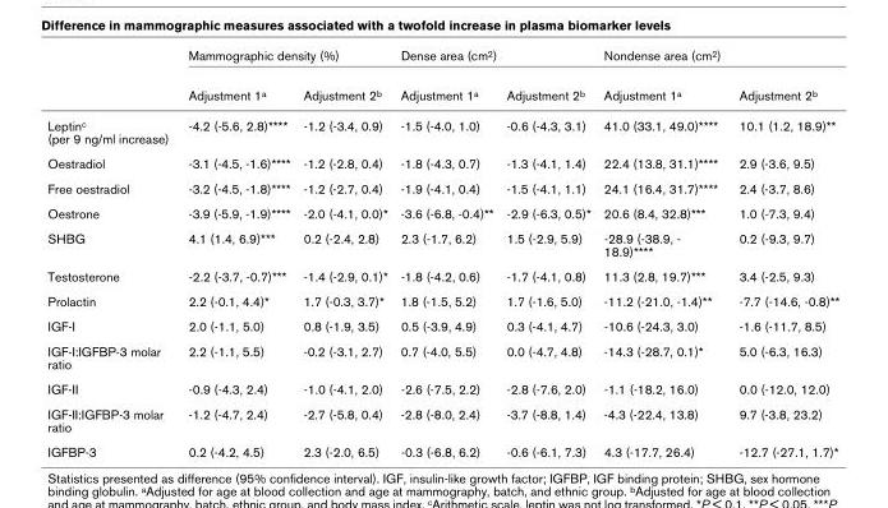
<table><thead><tr><td rowspan="2"></td><td colspan="2">Mammographic density (%)</td><td colspan="2">Dense area (cm<sup>2</sup>)</td><td colspan="2">Nondense area (cm<sup>2</sup>)</td></tr><tr><td>Adjustment 1<sup>a</sup></td><td>Adjustment 2<sup>b</sup></td><td>Adjustment 1<sup>a</sup></td><td>Adjustment 2<sup>b</sup></td><td>Adjustment 1<sup>a</sup></td><td>Adjustment 2<sup>b</sup></td></tr></thead><tbody><tr><td>Leptin<sup>c</sup> (per 9 ng/ml increase)</td><td>-4.2 (-5.6, 2.8)****</td><td>-1.2 (-3.4, 0.9)</td><td>-1.5 (-4.0, 1.0)</td><td>-0.6 (-4.3, 3.1)</td><td>41.0 (33.1, 49.0)****</td><td>10.1 (1.2, 18.9)**</td></tr><tr><td>Oestradiol</td><td>-3.1 (-4.5, -1.6)****</td><td>-1.2 (-2.8, 0.4)</td><td>-1.8 (-4.3, 0.7)</td><td>-1.3 (-4.1, 1.4)</td><td>22.4 (13.8, 31.1)****</td><td>2.9 (-3.6, 9.5)</td></tr><tr><td>Free oestradiol</td><td>-3.2 (-4.5, -1.8)****</td><td>-1.2 (-2.7, 0.4)</td><td>-1.9 (-4.1, 0.4)</td><td>-1.5 (-4.1, 1.1)</td><td>24.1 (16.4, 31.7)****</td><td>2.4 (-3.7, 8.6)</td></tr><tr><td>Oestrone</td><td>-3.9 (-5.9, -1.9)****</td><td>-2.0 (-4.1, 0.0)*</td><td>-3.6 (-6.8, -0.4)**</td><td>-2.9 (-6.3, 0.5)*</td><td>20.6 (8.4, 32.8)***</td><td>1.0 (-7.3, 9.4)</td></tr><tr><td>SHBG</td><td>4.1 (1.4, 6.9)***</td><td>0.2 (-2.4, 2.8)</td><td>2.3 (-1.7, 6.2)</td><td>1.5 (-2.9, 5.9)</td><td>-28.9 (-38.9, - 18.9)****</td><td>0.2 (-9.3, 9.7)</td></tr><tr><td>Testosterone</td><td>-2.2 (-3.7, -0.7)***</td><td>-1.4 (-2.9, 0.1)*</td><td>-1.8 (-4.2, 0.6)</td><td>-1.7 (-4.1, 0.8)</td><td>11.3 (2.8, 19.7)***</td><td>3.4 (-2.5, 9.3)</td></tr><tr><td>Prolactin</td><td>2.2 (-0.1, 4.4)*</td><td>1.7 (-0.3, 3.7)*</td><td>1.8 (-1.5, 5.2)</td><td>1.7 (-1.6, 5.0)</td><td>-11.2 (-21.0, -1.4)**</td><td>-7.7 (-14.6, -0.8)**</td></tr><tr><td>IGF-I</td><td>2.0 (-1.1, 5.0)</td><td>0.8 (-1.9, 3.5)</td><td>0.5 (-3.9, 4.9)</td><td>0.3 (-4.1, 4.7)</td><td>-10.6 (-24.3, 3.0)</td><td>-1.6 (-11.7, 8.5)</td></tr><tr><td>IGF-I:IGFBP-3 molar ratio</td><td>2.2 (-1.1, 5.5)</td><td>-0.2 (-3.1, 2.7)</td><td>0.7 (-4.0, 5.5)</td><td>0.0 (-4.7, 4.8)</td><td>-14.3 (-28.7, 0.1)*</td><td>5.0 (-6.3, 16.3)</td></tr><tr><td>IGF-II</td><td>-0.9 (-4.3, 2.4)</td><td>-1.0 (-4.1, 2.0)</td><td>-2.6 (-7.5, 2.2)</td><td>-2.8 (-7.6, 2.0)</td><td>-1.1 (-18.2, 16.0)</td><td>0.0 (-12.0, 12.0)</td></tr><tr><td>IGF-II:IGFBP-3 molar ratio</td><td>-1.2 (-4.7, 2.4)</td><td>-2.7 (-5.8, 0.4)</td><td>-2.8 (-8.0, 2.4)</td><td>-3.7 (-8.8, 1.4)</td><td>-4.3 (-22.4, 13.8)</td><td>9.7 (-3.8, 23.2)</td></tr><tr><td>IGFBP-3</td><td>0.2 (-4.2, 4.5)</td><td>2.3 (-2.0, 6.5)</td><td>-0.3 (-6.8, 6.2)</td><td>-0.6 (-6.1, 7.3)</td><td>4.3 (-17.7, 26.4)</td><td>-12.7 (-27.1, 1.7)*</td></tr></tbody></table>